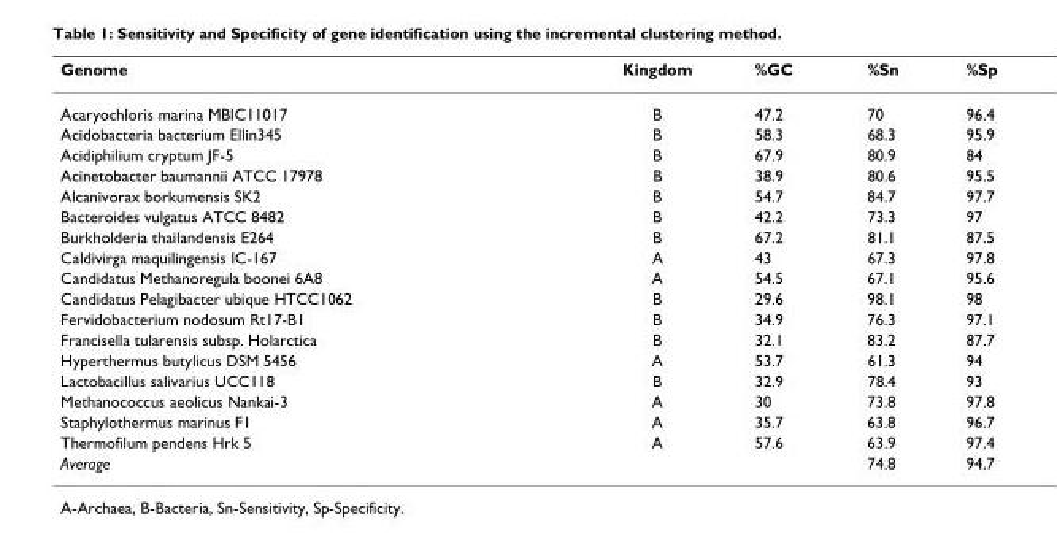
<table><thead><tr><td>Genome</td><td>Kingdom</td><td>%GC</td><td>%Sn</td><td>%Sp</td></tr></thead><tbody><tr><td>Acaryochloris marina MBIC11017</td><td>B</td><td>47.2</td><td>70</td><td>96.4</td></tr><tr><td>Acidobacteria bacterium Ellin345</td><td>B</td><td>58.3</td><td>68.3</td><td>95.9</td></tr><tr><td>Acidiphilium cryptum JF-5</td><td>B</td><td>67.9</td><td>80.9</td><td>84</td></tr><tr><td>Acinetobacter baumannii ATCC 17978</td><td>B</td><td>38.9</td><td>80.6</td><td>95.5</td></tr><tr><td>Alcanivorax borkumensis SK2</td><td>B</td><td>54.7</td><td>84.7</td><td>97.7</td></tr><tr><td>Bacteroides vulgatus ATCC 8482</td><td>B</td><td>42.2</td><td>73.3</td><td>97</td></tr><tr><td>Burkholderia thailandensis E264</td><td>B</td><td>67.2</td><td>81.1</td><td>87.5</td></tr><tr><td>Caldivirga maquilingensis IC-167</td><td>A</td><td>43</td><td>67.3</td><td>97.8</td></tr><tr><td>Candidatus Methanoregula boonei 6A8</td><td>A</td><td>54.5</td><td>67.1</td><td>95.6</td></tr><tr><td>Candidatus Pelagibacter ubique HTCC1062</td><td>B</td><td>29.6</td><td>98.1</td><td>98</td></tr><tr><td>Fervidobacterium nodosum Rt17-B1</td><td>B</td><td>34.9</td><td>76.3</td><td>97.1</td></tr><tr><td>Francisella tularensis subsp. Holarctica</td><td>B</td><td>32.1</td><td>83.2</td><td>87.7</td></tr><tr><td>Hyperthermus butylicus DSM 5456</td><td>A</td><td>53.7</td><td>61.3</td><td>94</td></tr><tr><td>Lactobacillus salivarius UCC118</td><td>B</td><td>32.9</td><td>78.4</td><td>93</td></tr><tr><td>Methanococcus aeolicus Nankai-3</td><td>A</td><td>30</td><td>73.8</td><td>97.8</td></tr><tr><td>Staphylothermus marinus F1</td><td>A</td><td>35.7</td><td>63.8</td><td>96.7</td></tr><tr><td>Thermofilum pendens Hrk 5</td><td>A</td><td>57.6</td><td>63.9</td><td>97.4</td></tr><tr><td>Average</td><td></td><td></td><td>74.8</td><td>94.7</td></tr></tbody></table>